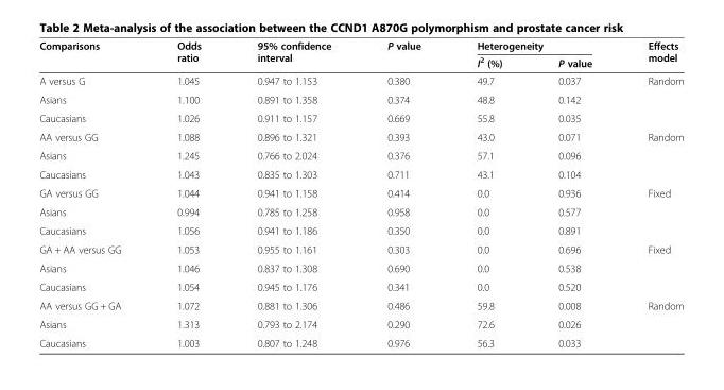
<table><thead><tr><td rowspan="2">Comparisons</td><td rowspan="2">Odds ratio</td><td rowspan="2">95% confidence interval</td><td rowspan="2">P value</td><td colspan="2">Heterogeneity</td><td rowspan="2">Effects model</td></tr><tr><td>I<sup>2</sup> (%)</td><td>P value</td></tr></thead><tbody><tr><td>A versus G</td><td>1.045</td><td>0.947 to 1.153</td><td>0.380</td><td>49.7</td><td>0.037</td><td rowspan="3">Random</td></tr><tr><td>Asians</td><td>1.100</td><td>0.891 to 1.358</td><td>0.374</td><td>48.8</td><td>0.142</td></tr><tr><td>Caucasians</td><td>1.026</td><td>0.911 to 1.157</td><td>0.669</td><td>55.8</td><td>0.035</td></tr><tr><td>AA versus GG</td><td>1.088</td><td>0.896 to 1.321</td><td>0.393</td><td>43.0</td><td>0.071</td><td rowspan="3">Random</td></tr><tr><td>Asians</td><td>1.245</td><td>0.766 to 2.024</td><td>0.376</td><td>57.1</td><td>0.096</td></tr><tr><td>Caucasians</td><td>1.043</td><td>0.835 to 1.303</td><td>0.711</td><td>43.1</td><td>0.104</td></tr><tr><td>GA versus GG</td><td>1.044</td><td>0.941 to 1.158</td><td>0.414</td><td>0.0</td><td>0.936</td><td rowspan="3">Fixed</td></tr><tr><td>Asians</td><td>0.994</td><td>0.785 to 1.258</td><td>0.958</td><td>0.0</td><td>0.577</td></tr><tr><td>Caucasians</td><td>1.056</td><td>0.941 to 1.186</td><td>0.350</td><td>0.0</td><td>0.891</td></tr><tr><td>GA + AA versus GG</td><td>1.053</td><td>0.955 to 1.161</td><td>0.303</td><td>0.0</td><td>0.696</td><td rowspan="3">Fixed</td></tr><tr><td>Asians</td><td>1.046</td><td>0.837 to 1.308</td><td>0.690</td><td>0.0</td><td>0.538</td></tr><tr><td>Caucasians</td><td>1.054</td><td>0.945 to 1.176</td><td>0.341</td><td>0.0</td><td>0.520</td></tr><tr><td>AA versus GG + GA</td><td>1.072</td><td>0.881 to 1.306</td><td>0.486</td><td>59.8</td><td>0.008</td><td rowspan="3">Random</td></tr><tr><td>Asians</td><td>1.313</td><td>0.793 to 2.174</td><td>0.290</td><td>72.6</td><td>0.026</td></tr><tr><td>Caucasians</td><td>1.003</td><td>0.807 to 1.248</td><td>0.976</td><td>56.3</td><td>0.033</td></tr></tbody></table>